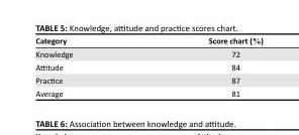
<table><thead><tr><td>Category</td><td>Score chart (%)</td></tr></thead><tbody><tr><td>Knowledge</td><td>72</td></tr><tr><td>Attitude</td><td>84</td></tr><tr><td>Practice</td><td>87</td></tr><tr><td>Average</td><td>81</td></tr></tbody></table>